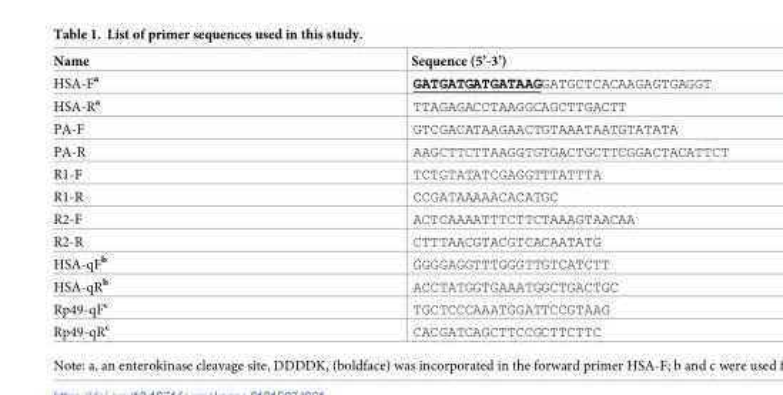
<table><thead><tr><td>Name</td><td>Sequence (5’-3’)</td></tr></thead><tbody><tr><td>HSA-F<sup>a</sup></td><td>GATGATGATGATAAGGATGCTCACAAGAGTGAGGT</td></tr><tr><td>HSA-R<sup>a</sup></td><td>TTAGAGACCTAAGGCAGCTTGACTT</td></tr><tr><td>PA-F</td><td>GTCGACATAAGAACTGTAAATAATGTATATA</td></tr><tr><td>PA-R</td><td>AAGCTTCTTAAGGTGTGACTGCTTCGGACTACATTCT</td></tr><tr><td>R1-F</td><td>TCTGTATATCGAGGTTTATTTA</td></tr><tr><td>R1-R</td><td>CCGATAAAAACACATGC</td></tr><tr><td>R2-F</td><td>ACTCAAAATTTCTTCTAAAGTAACAA</td></tr><tr><td>R2-R</td><td>CTTTAACGTACGTCACAATATG</td></tr><tr><td>HSA-qF<sup>b</sup></td><td>GGGGAGGTTTGGGTTGTCATCTT</td></tr><tr><td>HSA-qR<sup>b</sup></td><td>ACCTATGGTGAAATGGCTGACTGC</td></tr><tr><td>Rp49-qF<sup>c</sup></td><td>TGCTCCCAAATGGATTCCGTAAG</td></tr><tr><td>Rp49-qR<sup>c</sup></td><td>CACGATCAGCTTCCGCTTCTTC</td></tr></tbody></table>